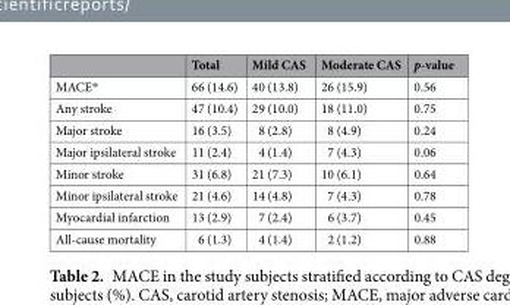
<table><thead><tr><td></td><td>Total</td><td>Mild CAS</td><td>Moderate CAS</td><td>p-value</td></tr></thead><tbody><tr><td>MACE*</td><td>66 (14.6)</td><td>40 (13.8)</td><td>26 (15.9)</td><td>0.56</td></tr><tr><td>Any stroke</td><td>47 (10.4)</td><td>29 (10.0)</td><td>18 (11.0)</td><td>0.75</td></tr><tr><td>Major stroke</td><td>16 (3.5)</td><td>8 (2.8)</td><td>8 (4.9)</td><td>0.24</td></tr><tr><td>Major ipsilateral stroke</td><td>11 (2.4)</td><td>4 (1.4)</td><td>7 (4.3)</td><td>0.06</td></tr><tr><td>Minor stroke</td><td>31 (6.8)</td><td>21 (7.3)</td><td>10 (6.1)</td><td>0.64</td></tr><tr><td>Minor ipsilateral stroke</td><td>21 (4.6)</td><td>14 (4.8)</td><td>7 (4.3)</td><td>0.78</td></tr><tr><td>Myocardial infarction</td><td>13 (2.9)</td><td>7 (2.4)</td><td>6 (3.7)</td><td>0.45</td></tr><tr><td>All-cause mortality</td><td>6 (1.3)</td><td>4 (1.4)</td><td>2 (1.2)</td><td>0.88</td></tr></tbody></table>